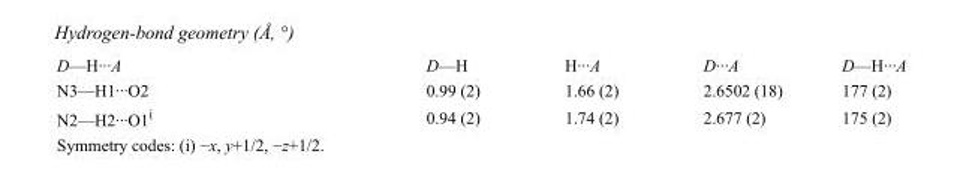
<table><tbody><tr><td>D—H···A</td><td>D—H</td><td>H···A</td><td>D···A</td><td>D—H···A</td></tr><tr><td>N3—H1···O2</td><td>0.99 (2)</td><td>1.66 (2)</td><td>2.6502 (18)</td><td>177 (2)</td></tr><tr><td>N2—H2···O1<sup>i</sup></td><td>0.94 (2)</td><td>1.74 (2)</td><td>2.677 (2)</td><td>175 (2)</td></tr></tbody></table>